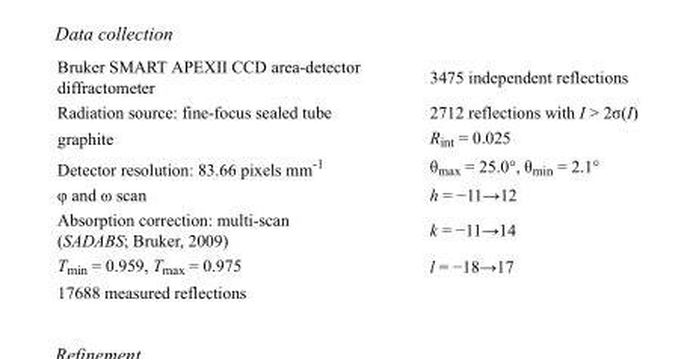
<table><tbody><tr><td>Bruker SMART APEXII CCD area-detector diffractometer</td><td>3475 independent reflections</td></tr><tr><td>Radiation source: fine-focus sealed tube</td><td>2712 reflections with I &gt; 2σ(I)</td></tr><tr><td>graphite</td><td>R<sub>int</sub> = 0.025</td></tr><tr><td>Detector resolution: 83.66 pixels mm<sup>-1</sup></td><td>θ<sub>max</sub> = 25.0°, θ<sub>min</sub> = 2.1°</td></tr><tr><td>φ and ω scan</td><td>h = −11→12</td></tr><tr><td>Absorption correction: multi-scan (SADABS; Bruker, 2009)</td><td>k = −11→14</td></tr><tr><td>T<sub>min</sub> = 0.959, T<sub>max</sub> = 0.975</td><td>l = −18→17</td></tr><tr><td>17688 measured reflections</td><td></td></tr></tbody></table>